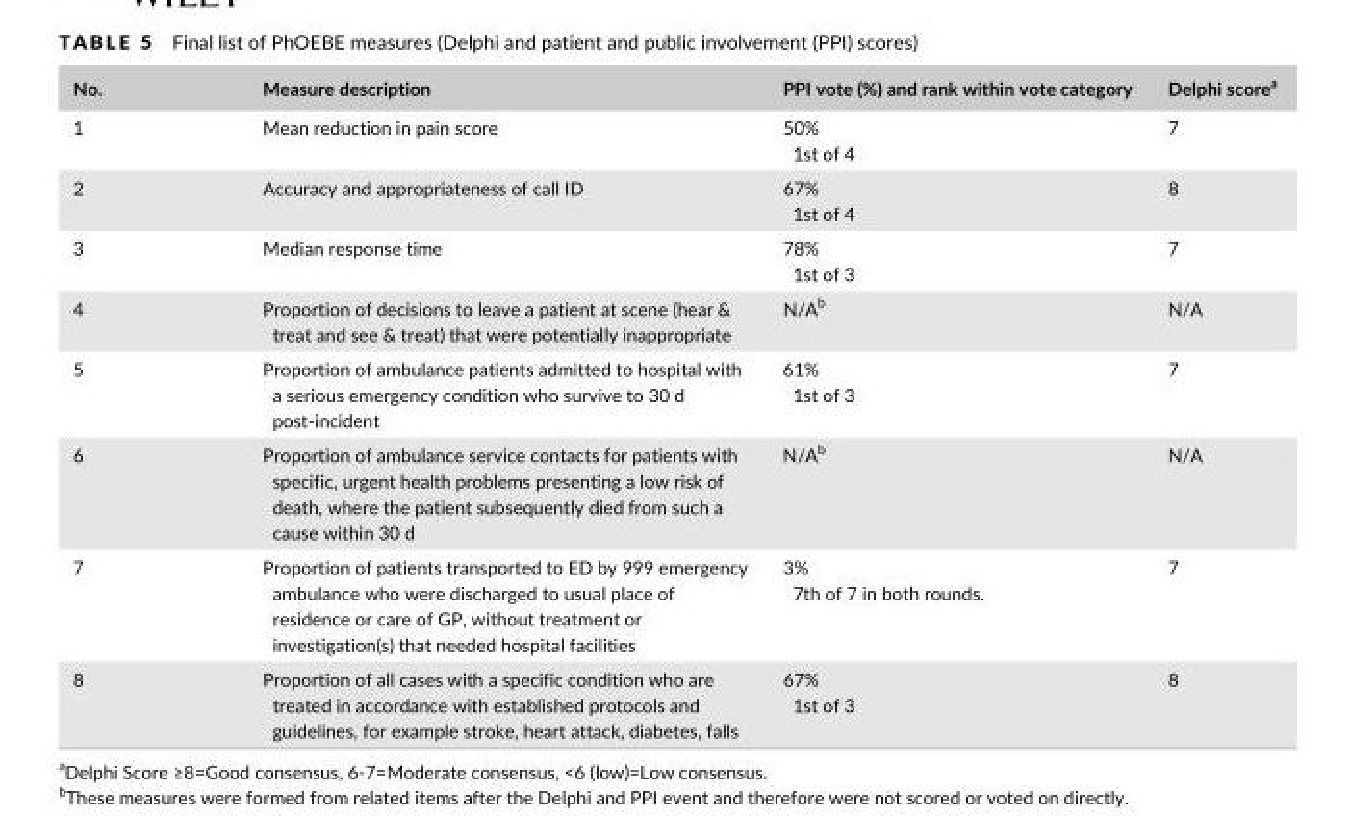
<table><thead><tr><td>No.</td><td>Measure description</td><td>PPI vote (%) and rank within vote category</td><td>Delphi score<sup>a</sup></td></tr></thead><tbody><tr><td>1</td><td>Mean reduction in pain score</td><td>50% 1st of 4</td><td>7</td></tr><tr><td>2</td><td>Accuracy and appropriateness of call ID</td><td>67% 1st of 4</td><td>8</td></tr><tr><td>3</td><td>Median response time</td><td>78% 1st of 3</td><td>7</td></tr><tr><td>4</td><td>Proportion of decisions to leave a patient at scene (hear &amp; treat and see &amp; treat) that were potentially inappropriate</td><td>N/A<sup>b</sup></td><td>N/A</td></tr><tr><td>5</td><td>Proportion of ambulance patients admitted to hospital with a serious emergency condition who survive to 30 d post- incident</td><td>61% 1st of 3</td><td>7</td></tr><tr><td>6</td><td>Proportion of ambulance service contacts for patients with specific, urgent health problems presenting a low risk of death, where the patient subsequently died from such a cause within 30 d</td><td>N/A<sup>b</sup></td><td>N/A</td></tr><tr><td>7</td><td>Proportion of patients transported to ED by 999 emergency ambulance who were discharged to usual place of residence or care of GP, without treatment or investigation(s) that needed hospital facilities</td><td>3% 7th of 7 in both rounds.</td><td>7</td></tr><tr><td>8</td><td>Proportion of all cases with a specific condition who are treated in accordance with established protocols and guidelines, for example stroke, heart attack, diabetes, falls</td><td>67% 1st of 3</td><td>8</td></tr></tbody></table>